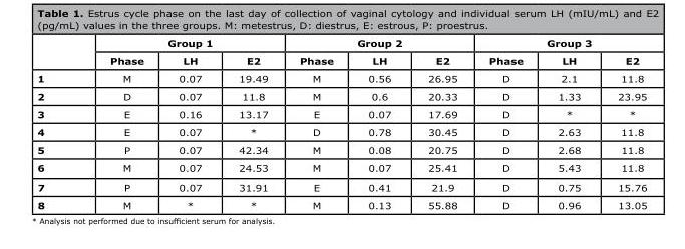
<table><thead><tr><td rowspan="2"></td><td colspan="3">Group 1</td><td colspan="3">Group 2</td><td colspan="3">Group 3</td></tr><tr><td>Phase</td><td>LH</td><td>E2</td><td>Phase</td><td>LH</td><td>E2</td><td>Phase</td><td>LH</td><td>E2</td></tr></thead><tbody><tr><td>1</td><td>M</td><td>0.07</td><td>19.49</td><td>M</td><td>0.56</td><td>26.95</td><td>D</td><td>2.1</td><td>11.8</td></tr><tr><td>2</td><td>D</td><td>0.07</td><td>11.8</td><td>M</td><td>0.6</td><td>20.33</td><td>D</td><td>1.33</td><td>23.95</td></tr><tr><td>3</td><td>E</td><td>0.16</td><td>13.17</td><td>E</td><td>0.07</td><td>17.69</td><td>D</td><td>*</td><td>*</td></tr><tr><td>4</td><td>E</td><td>0.07</td><td>*</td><td>D</td><td>0.78</td><td>30.45</td><td>D</td><td>2.63</td><td>11.8</td></tr><tr><td>5</td><td>P</td><td>0.07</td><td>42.34</td><td>M</td><td>0.08</td><td>20.75</td><td>D</td><td>2.68</td><td>11.8</td></tr><tr><td>6</td><td>M</td><td>0.07</td><td>24.53</td><td>M</td><td>0.07</td><td>25.41</td><td>D</td><td>5.43</td><td>11.8</td></tr><tr><td>7</td><td>P</td><td>0.07</td><td>31.91</td><td>E</td><td>0.41</td><td>21.9</td><td>D</td><td>0.75</td><td>15.76</td></tr><tr><td>8</td><td>M</td><td>*</td><td>*</td><td>M</td><td>0.13</td><td>55.88</td><td>D</td><td>0.96</td><td>13.05</td></tr></tbody></table>